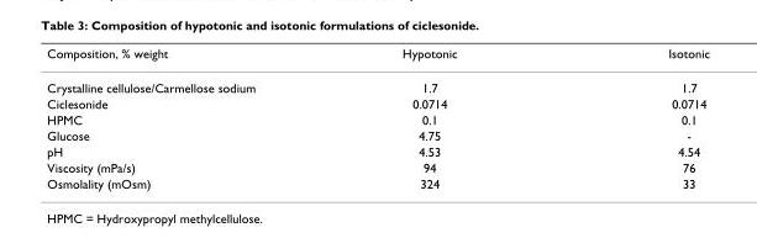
<table><thead><tr><td>Composition, % weight</td><td>Hypotonic</td><td>Isotonic</td></tr></thead><tbody><tr><td>Crystalline cellulose/Carmellose sodium</td><td>1.7</td><td>1.7</td></tr><tr><td>Ciclesonide</td><td>0.0714</td><td>0.0714</td></tr><tr><td>HPMC</td><td>0.1</td><td>0.1</td></tr><tr><td>Glucose</td><td>4.75</td><td>-</td></tr><tr><td>pH</td><td>4.53</td><td>4.54</td></tr><tr><td>Viscosity (mPa/s)</td><td>94</td><td>76</td></tr><tr><td>Osmolality (mOsm)</td><td>324</td><td>33</td></tr></tbody></table>